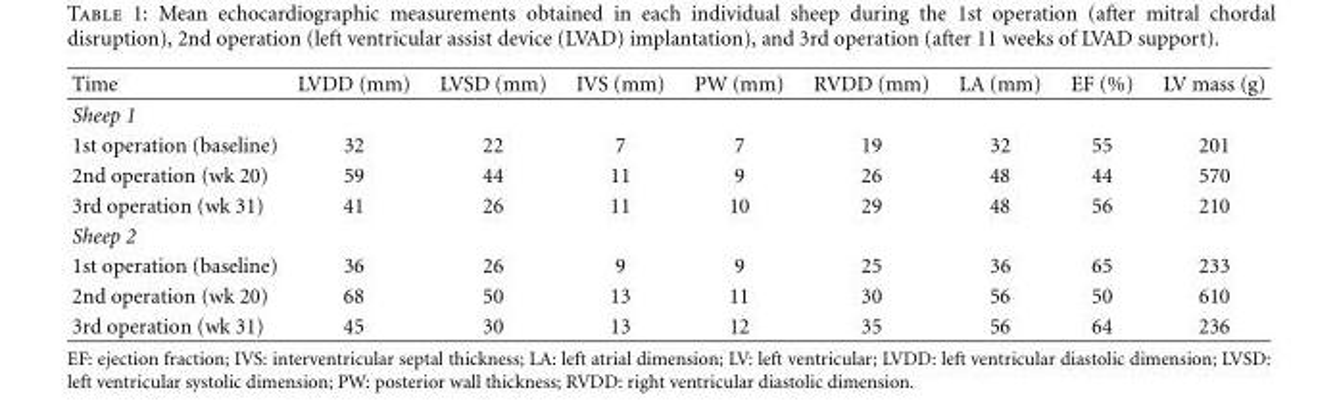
<table><thead><tr><td>Time</td><td>LVDD (mm)</td><td>LVSD (mm)</td><td>IVS (mm)</td><td>PW (mm)</td><td>RVDD (mm)</td><td>LA (mm)</td><td>EF (%)</td><td>LV mass (g)</td></tr></thead><tbody><tr><td colspan="9">Sheep 1</td></tr><tr><td>1st operation (baseline)</td><td>32</td><td>22</td><td>7</td><td>7</td><td>19</td><td>32</td><td>55</td><td>201</td></tr><tr><td>2nd operation (wk 20)</td><td>59</td><td>44</td><td>11</td><td>9</td><td>26</td><td>48</td><td>44</td><td>570</td></tr><tr><td>3rd operation (wk 31)</td><td>41</td><td>26</td><td>11</td><td>10</td><td>29</td><td>48</td><td>56</td><td>210</td></tr><tr><td colspan="9">Sheep 2</td></tr><tr><td>1st operation (baseline)</td><td>36</td><td>26</td><td>9</td><td>9</td><td>25</td><td>36</td><td>65</td><td>233</td></tr><tr><td>2nd operation (wk 20)</td><td>68</td><td>50</td><td>13</td><td>11</td><td>30</td><td>56</td><td>50</td><td>610</td></tr><tr><td>3rd operation (wk 31)</td><td>45</td><td>30</td><td>13</td><td>12</td><td>35</td><td>56</td><td>64</td><td>236</td></tr></tbody></table>